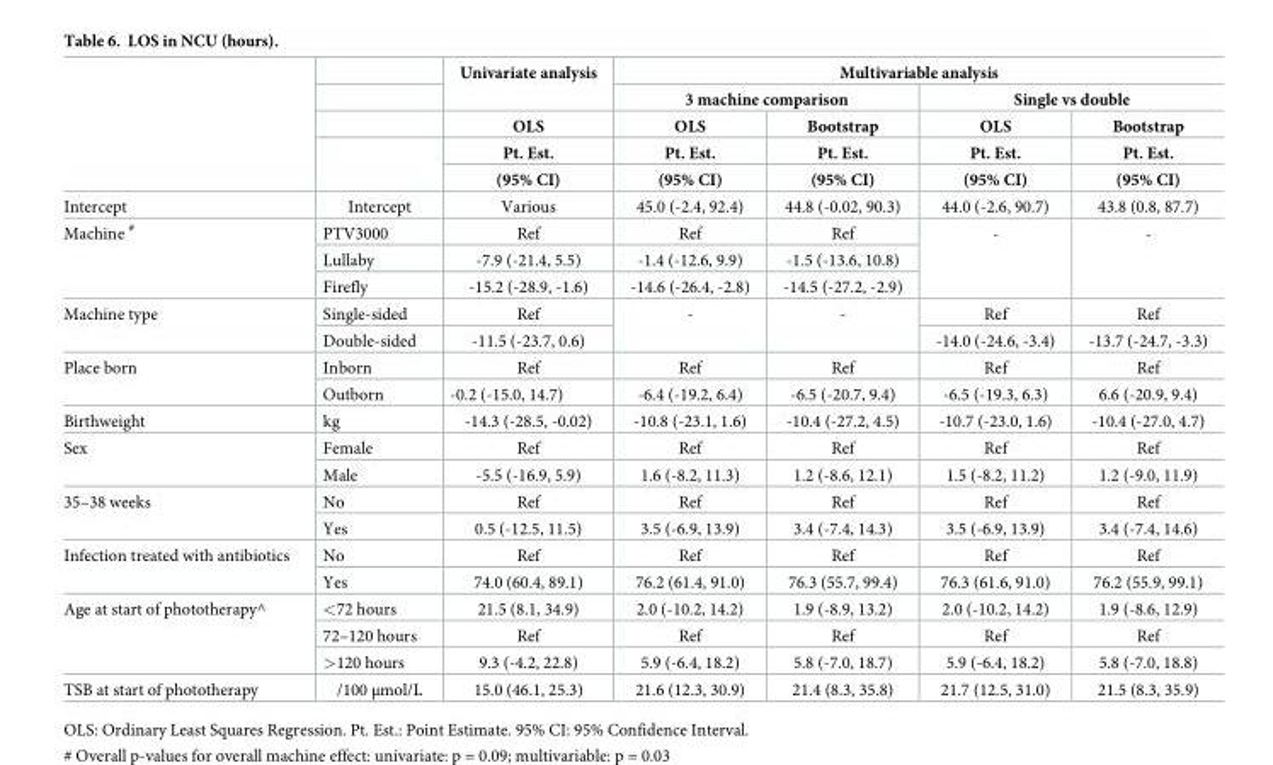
<table><thead><tr><td rowspan="5"></td><td rowspan="5"></td><td rowspan="5">Univariate analysis OLS Pt. Est. (95% CI)</td><td colspan="4">Multivariable analysis</td></tr><tr><td colspan="2">3 machine comparison</td><td colspan="2">Single vs double</td></tr><tr><td rowspan="3">OLS Pt. Est. (95% CI)</td><td rowspan="3">Bootstrap Pt. Est. (95% CI)</td><td rowspan="3">OLS Pt. Est. (95% CI)</td><td rowspan="3">Bootstrap Pt. Est. (95% CI)</td></tr><tr></tr><tr></tr></thead><tbody><tr><td>Intercept</td><td>Intercept</td><td>Various</td><td>45.0 (-2.4, 92.4)</td><td>44.8 (-0.02, 90.3)</td><td>44.0 (-2.6, 90.7)</td><td>43.8 (0.8, 87.7)</td></tr><tr><td rowspan="3">Machine <sup>#</sup></td><td>PTV3000</td><td>Ref</td><td>Ref</td><td>Ref</td><td rowspan="3">-</td><td rowspan="3">-</td></tr><tr><td>Lullaby</td><td>-7.9 (-21.4, 5.5)</td><td>-1.4 (-12.6, 9.9)</td><td>-1.5 (-13.6, 10.8)</td></tr><tr><td>Firefly</td><td>-15.2 (-28.9, -1.6)</td><td>-14.6 (-26.4, -2.8)</td><td>-14.5 (-27.2, -2.9)</td></tr><tr><td rowspan="2">Machine type</td><td>Single-sided</td><td>Ref</td><td rowspan="2">-</td><td rowspan="2">-</td><td>Ref</td><td>Ref</td></tr><tr><td>Double-sided</td><td>-11.5 (-23.7, 0.6)</td><td>-14.0 (-24.6, -3.4)</td><td>-13.7 (-24.7, -3.3)</td></tr><tr><td rowspan="2">Place born</td><td>Inborn</td><td>Ref</td><td>Ref</td><td>Ref</td><td>Ref</td><td>Ref</td></tr><tr><td>Outborn</td><td>-0.2 (-15.0, 14.7)</td><td>-6.4 (-19.2, 6.4)</td><td>-6.5 (-20.7, 9.4)</td><td>-6.5 (-19.3, 6.3)</td><td>6.6 (-20.9, 9.4)</td></tr><tr><td>Birthweight</td><td>kg</td><td>-14.3 (-28.5, -0.02)</td><td>-10.8 (-23.1, 1.6)</td><td>-10.4 (-27.2, 4.5)</td><td>-10.7 (-23.0, 1.6)</td><td>-10.4 (-27.0, 4.7)</td></tr><tr><td rowspan="2">Sex</td><td>Female</td><td>Ref</td><td>Ref</td><td>Ref</td><td>Ref</td><td>Ref</td></tr><tr><td>Male</td><td>-5.5 (-16.9, 5.9)</td><td>1.6 (-8.2, 11.3)</td><td>1.2 (-8.6, 12.1)</td><td>1.5 (-8.2, 11.2)</td><td>1.2 (-9.0, 11.9)</td></tr><tr><td rowspan="2">35–38 weeks</td><td>No</td><td>Ref</td><td>Ref</td><td>Ref</td><td>Ref</td><td>Ref</td></tr><tr><td>Yes</td><td>0.5 (-12.5, 11.5)</td><td>3.5 (-6.9, 13.9)</td><td>3.4 (-7.4, 14.3)</td><td>3.5 (-6.9, 13.9)</td><td>3.4 (-7.4, 14.6)</td></tr><tr><td rowspan="2">Infection treated with antibiotics</td><td>No</td><td>Ref</td><td>Ref</td><td>Ref</td><td>Ref</td><td>Ref</td></tr><tr><td>Yes</td><td>74.0 (60.4, 89.1)</td><td>76.2 (61.4, 91.0)</td><td>76.3 (55.7, 99.4)</td><td>76.3 (61.6, 91.0)</td><td>76.2 (55.9, 99.1)</td></tr><tr><td rowspan="3">Age at start of phototherapy^</td><td>&lt;72 hours</td><td>21.5 (8.1, 34.9)</td><td>2.0 (-10.2, 14.2)</td><td>1.9 (-8.9, 13.2)</td><td>2.0 (-10.2, 14.2)</td><td>1.9 (-8.6, 12.9)</td></tr><tr><td>72–120 hours</td><td>Ref</td><td>Ref</td><td>Ref</td><td>Ref</td><td>Ref</td></tr><tr><td>&gt;120 hours</td><td>9.3 (-4.2, 22.8)</td><td>5.9 (-6.4, 18.2)</td><td>5.8 (-7.0, 18.7)</td><td>5.9 (-6.4, 18.2)</td><td>5.8 (-7.0, 18.8)</td></tr><tr><td>TSB at start of phototherapy</td><td>/100 μmol/L</td><td>15.0 (46.1, 25.3)</td><td>21.6 (12.3, 30.9)</td><td>21.4 (8.3, 35.8)</td><td>21.7 (12.5, 31.0)</td><td>21.5 (8.3, 35.9)</td></tr></tbody></table>